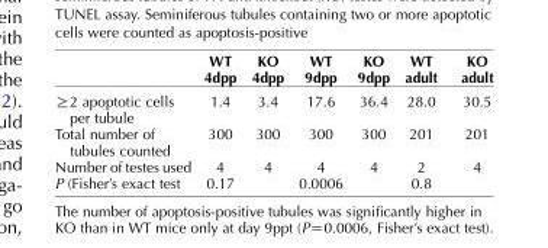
<table><thead><tr><td></td><td>WT 4dpp</td><td>KO 4dpp</td><td>WT 9dpp</td><td>KO 9dpp</td><td>WT adult</td><td>KO adult</td></tr></thead><tbody><tr><td>≥2 apoptotic cells per tubule</td><td>1.4</td><td>3.4</td><td>17.6</td><td>36.4</td><td>28.0</td><td>30.5</td></tr><tr><td>Total number of tubules counted</td><td>300</td><td>300</td><td>300</td><td>300</td><td>201</td><td>201</td></tr><tr><td>Number of testes used</td><td>4</td><td>4</td><td>4</td><td>4</td><td>2</td><td>4</td></tr><tr><td>P (Fisher’s exact test</td><td>0.17</td><td></td><td>0.0006</td><td></td><td>0.8</td><td></td></tr></tbody></table>